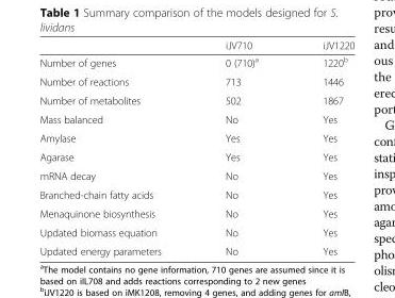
<table><thead><tr><td></td><td>iJV710</td><td>iJV1220</td></tr></thead><tbody><tr><td>Number of genes</td><td>0 (710)<sup>a</sup></td><td>1220<sup>b</sup></td></tr><tr><td>Number of reactions</td><td>713</td><td>1446</td></tr><tr><td>Number of metabolites</td><td>502</td><td>1867</td></tr><tr><td>Mass balanced</td><td>No</td><td>Yes</td></tr><tr><td>Amylase</td><td>Yes</td><td>Yes</td></tr><tr><td>Agarase</td><td>Yes</td><td>Yes</td></tr><tr><td>mRNA decay</td><td>No</td><td>Yes</td></tr><tr><td>Branched-chain fatty acids</td><td>No</td><td>Yes</td></tr><tr><td>Menaquinone biosynthesis</td><td>No</td><td>Yes</td></tr><tr><td>Updated biomass equation</td><td>No</td><td>Yes</td></tr><tr><td>Updated energy parameters</td><td>No</td><td>Yes</td></tr></tbody></table>